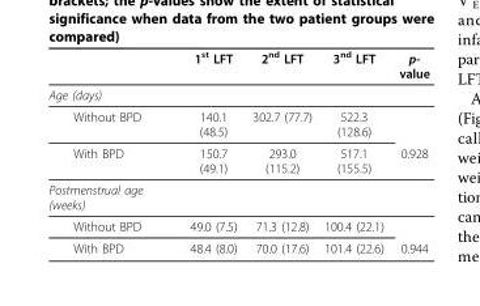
<table><thead><tr><td></td><td>1<sup>st</sup> LFT</td><td>2<sup>nd</sup> LFT</td><td>3<sup>nd</sup> LFT</td><td>p- value</td></tr></thead><tbody><tr><td colspan="5">Age (days)</td></tr><tr><td>Without BPD</td><td>140.1 (48.5)</td><td>302.7 (77.7)</td><td>522.3 (128.6)</td><td></td></tr><tr><td>With BPD</td><td>150.7 (49.1)</td><td>293.0 (115.2)</td><td>517.1 (155.5)</td><td>0.928</td></tr><tr><td colspan="5">Postmenstrual age (weeks)</td></tr><tr><td>Without BPD</td><td>49.0 (7.5)</td><td>71.3 (12.8)</td><td>100.4 (22.1)</td><td></td></tr><tr><td>With BPD</td><td>48.4 (8.0)</td><td>70.0 (17.6)</td><td>101.4 (22.6)</td><td>0.944</td></tr></tbody></table>